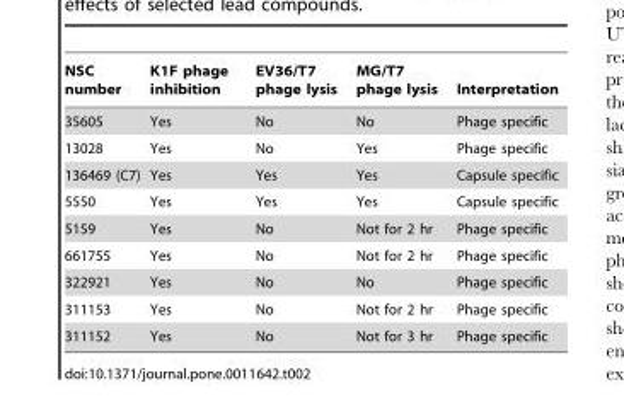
<table><thead><tr><td>NSC number</td><td>K1F phage inhibition</td><td>EV36/T7 phage lysis</td><td>MG/T7 phage lysis</td><td>Interpretation</td></tr></thead><tbody><tr><td>35605</td><td>Yes</td><td>No</td><td>No</td><td>Phage specific</td></tr><tr><td>13028</td><td>Yes</td><td>No</td><td>Yes</td><td>Phage specific</td></tr><tr><td>136469 (C7)</td><td>Yes</td><td>Yes</td><td>Yes</td><td>Capsule specific</td></tr><tr><td>5550</td><td>Yes</td><td>Yes</td><td>Yes</td><td>Capsule specific</td></tr><tr><td>5159</td><td>Yes</td><td>No</td><td>Not for 2 hr</td><td>Phage specific</td></tr><tr><td>661755</td><td>Yes</td><td>No</td><td>Not for 2 hr</td><td>Phage specific</td></tr><tr><td>322921</td><td>Yes</td><td>No</td><td>No</td><td>Phage specific</td></tr><tr><td>311153</td><td>Yes</td><td>No</td><td>Not for 2 hr</td><td>Phage specific</td></tr><tr><td>311152</td><td>Yes</td><td>No</td><td>Not for 3 hr</td><td>Phage specific</td></tr></tbody></table>